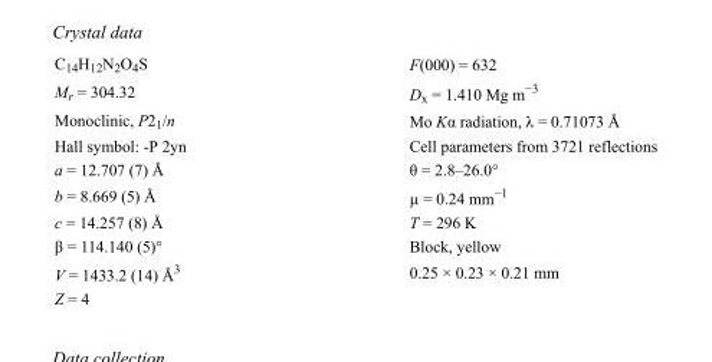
<table><tbody><tr><td>C<sub>14</sub>H<sub>12</sub>N<sub>2</sub>O<sub>4</sub>S</td><td>F(000) = 632</td></tr><tr><td>M<sub>r</sub> = 304.32</td><td>D<sub>x</sub> = 1.410 Mg m<sup>−3</sup></td></tr><tr><td>Monoclinic, P2<sub>1</sub>/n</td><td>Mo Kα radiation, λ = 0.71073 Å</td></tr><tr><td>Hall symbol: -P 2yn</td><td>Cell parameters from 3721 reflections</td></tr><tr><td>a = 12.707 (7) Å</td><td>θ = 2.8–26.0°</td></tr><tr><td>b = 8.669 (5) Å</td><td>µ = 0.24 mm<sup>−1</sup></td></tr><tr><td>c = 14.257 (8) Å</td><td>T = 296 K</td></tr><tr><td>β = 114.140 (5)°</td><td>Block, yellow</td></tr><tr><td>V = 1433.2 (14) Å<sup>3</sup></td><td>0.25 × 0.23 × 0.21 mm</td></tr><tr><td>Z = 4</td><td></td></tr></tbody></table>